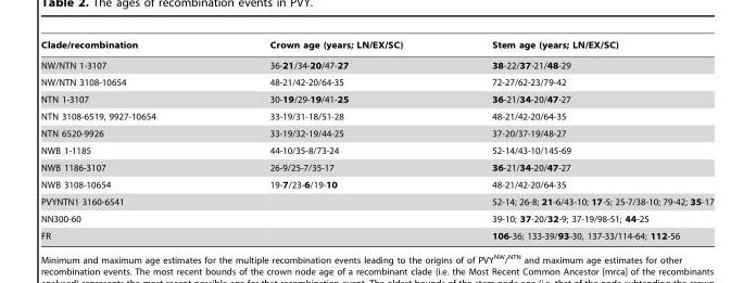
<table><thead><tr><td>Clade/recombination</td><td>Crown age (years; LN/EX/SC)</td><td>Stem age (years; LN/EX/SC)</td></tr></thead><tbody><tr><td>NW/NTN 1-3107</td><td>36-21/34-20/47-27</td><td>38-22/37-21/48-29</td></tr><tr><td>NW/NTN 3108-10654</td><td>48-21/42-20/64-35</td><td>72-27/62-23/79-42</td></tr><tr><td>NTN 1-3107</td><td>30-19/29-19/41-25</td><td>36-21/34-20/47-27</td></tr><tr><td>NTN 3108-6519, 9927-10654</td><td>33-19/31-18/51-28</td><td>48-21/42-20/64-35</td></tr><tr><td>NTN 6520-9926</td><td>33-19/32-19/44-25</td><td>37-20/37-19/48-27</td></tr><tr><td>NWB 1-1185</td><td>44-10/35-8/73-24</td><td>52-14/43-10/145-69</td></tr><tr><td>NWB 1186-3107</td><td>26-9/25-7/35-17</td><td>36-21/34-20/47-27</td></tr><tr><td>NWB 3108-10654</td><td>19-7/23-6/19-10</td><td>48-21/42-20/64-35</td></tr><tr><td>PVYNTN1 3160-6541</td><td></td><td>52-14; 26-8; 21-6/43-10; 17-5; 25-7/38-10; 79-42; 35-17</td></tr><tr><td>NN300-60</td><td></td><td>39-10; 37-20/32-9; 37-19/98-51; 44-25</td></tr><tr><td>FR</td><td></td><td>106-36; 133-39/93-30, 137-33/114-64; 112-56</td></tr></tbody></table>